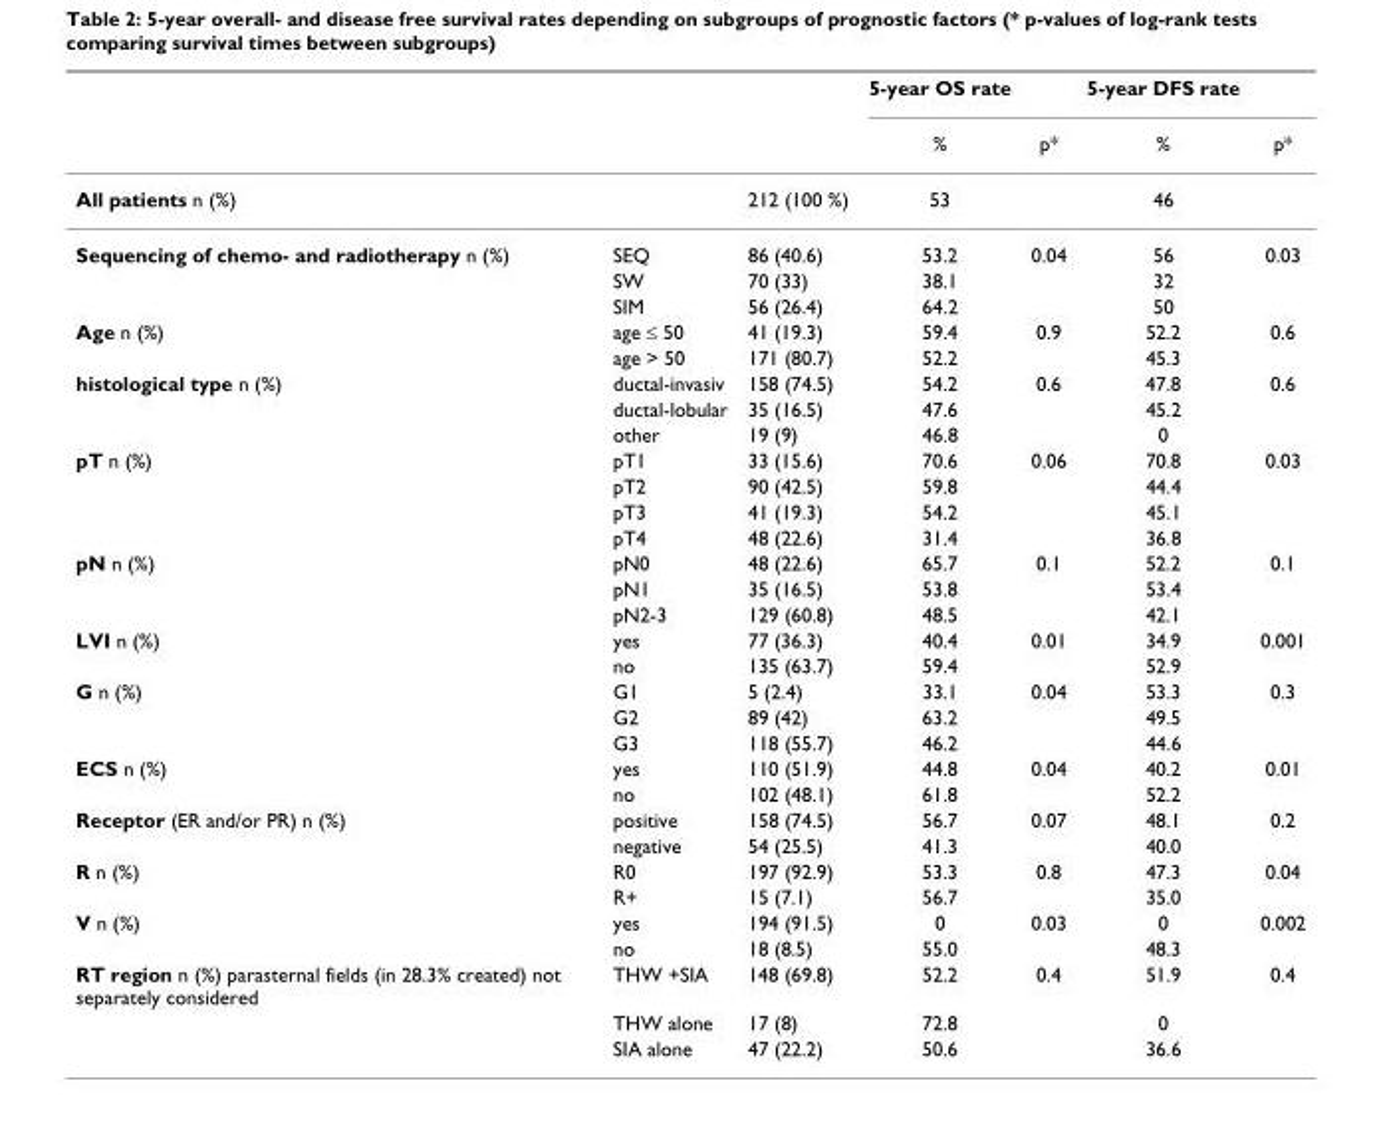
<table><thead><tr><td rowspan="2"></td><td rowspan="2"></td><td rowspan="2"></td><td rowspan="2">5-year OS rate %</td><td rowspan="2">p*</td><td rowspan="2">5-year DFS rate %</td><td rowspan="2">p*</td></tr><tr></tr></thead><tbody><tr><td colspan="2">All patients n (%)</td><td>212 (100 %)</td><td>53</td><td></td><td>46</td><td></td></tr><tr><td rowspan="3">Sequencing of chemo- and radiotherapy n (%)</td><td>SEQ</td><td>86 (40.6)</td><td>53.2</td><td>0.04</td><td>56</td><td>0.03</td></tr><tr><td>SW</td><td>70 (33)</td><td>38.1</td><td></td><td>32</td><td></td></tr><tr><td>SIM</td><td>56 (26.4)</td><td>64.2</td><td></td><td>50</td><td></td></tr><tr><td rowspan="2">Age n (%)</td><td>age ≤ 50</td><td>41 (19.3)</td><td>59.4</td><td>0.9</td><td>52.2</td><td>0.6</td></tr><tr><td>age &gt; 50</td><td>171 (80.7)</td><td>52.2</td><td></td><td>45.3</td><td></td></tr><tr><td rowspan="3">histological type n (%)</td><td>ductal-invasiv</td><td>158 (74.5)</td><td>54.2</td><td>0.6</td><td>47.8</td><td>0.6</td></tr><tr><td>ductal-lobular</td><td>35 (16.5)</td><td>47.6</td><td></td><td>45.2</td><td></td></tr><tr><td>other</td><td>19 (9)</td><td>46.8</td><td></td><td>0</td><td></td></tr><tr><td rowspan="4">pT n (%)</td><td>pT1</td><td>33 (15.6)</td><td>70.6</td><td>0.06</td><td>70.8</td><td>0.03</td></tr><tr><td>pT2</td><td>90 (42.5)</td><td>59.8</td><td></td><td>44.4</td><td></td></tr><tr><td>pT3</td><td>41 (19.3)</td><td>54.2</td><td></td><td>45.1</td><td></td></tr><tr><td>pT4</td><td>48 (22.6)</td><td>31.4</td><td></td><td>36.8</td><td></td></tr><tr><td rowspan="3">pN n (%)</td><td>pN0</td><td>48 (22.6)</td><td>65.7</td><td>0.1</td><td>52.2</td><td>0.1</td></tr><tr><td>pN1</td><td>35 (16.5)</td><td>53.8</td><td></td><td>53.4</td><td></td></tr><tr><td>pN2-3</td><td>129 (60.8)</td><td>48.5</td><td></td><td>42.1</td><td></td></tr><tr><td rowspan="2">LVI n (%)</td><td>yes</td><td>77 (36.3)</td><td>40.4</td><td>0.01</td><td>34.9</td><td>0.001</td></tr><tr><td>no</td><td>135 (63.7)</td><td>59.4</td><td></td><td>52.9</td><td></td></tr><tr><td rowspan="3">G n (%)</td><td>G1</td><td>5 (2.4)</td><td>33.1</td><td>0.04</td><td>53.3</td><td>0.3</td></tr><tr><td>G2</td><td>89 (42)</td><td>63.2</td><td></td><td>49.5</td><td></td></tr><tr><td>G3</td><td>118 (55.7)</td><td>46.2</td><td></td><td>44.6</td><td></td></tr><tr><td rowspan="2">ECS n (%)</td><td>yes</td><td>110 (51.9)</td><td>44.8</td><td>0.04</td><td>40.2</td><td>0.01</td></tr><tr><td>no</td><td>102 (48.1)</td><td>61.8</td><td></td><td>52.2</td><td></td></tr><tr><td rowspan="2">Receptor (ER and/or PR) n (%)</td><td>positive</td><td>158 (74.5)</td><td>56.7</td><td>0.07</td><td>48.1</td><td>0.2</td></tr><tr><td>negative</td><td>54 (25.5)</td><td>41.3</td><td></td><td>40.0</td><td></td></tr><tr><td rowspan="2">R n (%)</td><td>R0</td><td>197 (92.9)</td><td>53.3</td><td>0.8</td><td>47.3</td><td>0.04</td></tr><tr><td>R+</td><td>15 (7.1)</td><td>56.7</td><td></td><td>35.0</td><td></td></tr><tr><td rowspan="2">V n (%)</td><td>yes</td><td>194 (91.5)</td><td>0</td><td>0.03</td><td>0</td><td>0.002</td></tr><tr><td>no</td><td>18 (8.5)</td><td>55.0</td><td></td><td>48.3</td><td></td></tr><tr><td rowspan="3">RT region n (%) parasternal fields (in 28.3% created) not separately considered</td><td>THW +SIA</td><td>148 (69.8)</td><td>52.2</td><td>0.4</td><td>51.9</td><td>0.4</td></tr><tr><td>THW alone</td><td>17 (8)</td><td>72.8</td><td></td><td>0</td><td></td></tr><tr><td>SIA alone</td><td>47 (22.2)</td><td>50.6</td><td></td><td>36.6</td><td></td></tr></tbody></table>